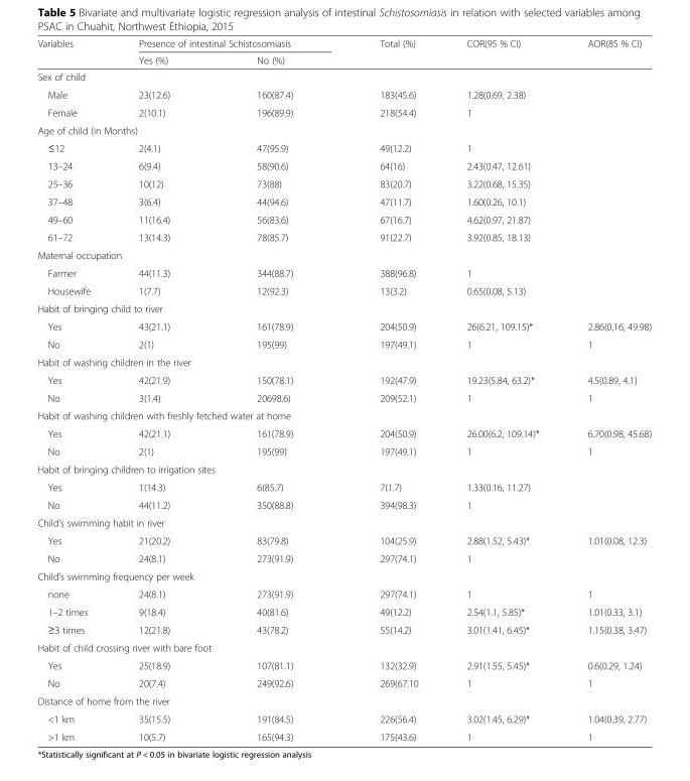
<table><thead><tr><td rowspan="2">Variables</td><td colspan="2">Presence of intestinal Schistosomiasis</td><td rowspan="2">Total (%)</td><td rowspan="2">COR(95 % CI)</td><td rowspan="2">AOR(85 % CI)</td></tr><tr><td>Yes (%)</td><td>No (%)</td></tr></thead><tbody><tr><td colspan="6">Sex of child</td></tr><tr><td>Male</td><td>23(12.6)</td><td>160(87.4)</td><td>183(45.6)</td><td>1.28(0.69, 2.38)</td><td></td></tr><tr><td>Female</td><td>2(10.1)</td><td>196(89.9)</td><td>218(54.4)</td><td>1</td><td></td></tr><tr><td colspan="6">Age of child (in Months)</td></tr><tr><td>≤12</td><td>2(4.1)</td><td>47(95.9)</td><td>49(12.2)</td><td>1</td><td></td></tr><tr><td>13–24</td><td>6(9.4)</td><td>58(90.6)</td><td>64(16)</td><td>2.43(0.47, 12.61)</td><td></td></tr><tr><td>25–36</td><td>10(12)</td><td>73(88)</td><td>83(20.7)</td><td>3.22(0.68, 15.35)</td><td></td></tr><tr><td>37–48</td><td>3(6.4)</td><td>44(94.6)</td><td>47(11.7)</td><td>1.60(0.26, 10.1)</td><td></td></tr><tr><td>49–60</td><td>11(16.4)</td><td>56(83.6)</td><td>67(16.7)</td><td>4.62(0.97, 21.87)</td><td></td></tr><tr><td>61–72</td><td>13(14.3)</td><td>78(85.7)</td><td>91(22.7)</td><td>3.92(0.85, 18.13)</td><td></td></tr><tr><td colspan="6">Maternal occupation</td></tr><tr><td>Farmer</td><td>44(11.3)</td><td>344(88.7)</td><td>388(96.8)</td><td>1</td><td></td></tr><tr><td>Housewife</td><td>1(7.7)</td><td>12(92.3)</td><td>13(3.2)</td><td>0.65(0.08, 5.13)</td><td></td></tr><tr><td colspan="6">Habit of bringing child to river</td></tr><tr><td>Yes</td><td>43(21.1)</td><td>161(78.9)</td><td>204(50.9)</td><td>26(6.21, 109.15)*</td><td>2.86(0,16, 49.98)</td></tr><tr><td>No</td><td>2(1)</td><td>195(99)</td><td>197(49.1)</td><td>1</td><td>1</td></tr><tr><td colspan="6">Habit of washing children in the river</td></tr><tr><td>Yes</td><td>42(21.9)</td><td>150(78.1)</td><td>192(47.9)</td><td>19.23(5.84, 63.2)*</td><td>4.5(0.89, 4.1)</td></tr><tr><td>No</td><td>3(1.4)</td><td>20698.6)</td><td>209(52.1)</td><td>1</td><td>1</td></tr><tr><td colspan="6">Habit of washing children with freshly fetched water at home</td></tr><tr><td>Yes</td><td>42(21.1)</td><td>161(78.9)</td><td>204(50.9)</td><td>26.00(6.2, 109.14)*</td><td>6.70(0.98, 45.68)</td></tr><tr><td>No</td><td>2(1)</td><td>195(99)</td><td>197(49.1)</td><td>1</td><td>1</td></tr><tr><td colspan="6">Habit of bringing children to irrigation sites</td></tr><tr><td>Yes</td><td>1(14.3)</td><td>6(85.7)</td><td>7(1.7)</td><td>1.33(0.16, 11.27)</td><td></td></tr><tr><td>No</td><td>44(11.2)</td><td>350(88.8)</td><td>394(98.3)</td><td>1</td><td></td></tr><tr><td colspan="6">Child’s swimming habit in river</td></tr><tr><td>Yes</td><td>21(20.2)</td><td>83(79.8)</td><td>104(25.9)</td><td>2.88(1.52, 5.43)*</td><td>1.01(0.08, 12.3)</td></tr><tr><td>No</td><td>24(8.1)</td><td>273(91.9)</td><td>297(74.1)</td><td>1</td><td></td></tr><tr><td colspan="6">Child’s swimming frequency per week</td></tr><tr><td>none</td><td>24(8.1)</td><td>273(91.9)</td><td>297(74.1)</td><td>1</td><td>1</td></tr><tr><td>1–2 times</td><td>9(18.4)</td><td>40(81.6)</td><td>49(12.2)</td><td>2.54(1.1, 5.85)*</td><td>1.01(0.33, 3.1)</td></tr><tr><td>≥3 times</td><td>12(21.8)</td><td>43(78.2)</td><td>55(14.2)</td><td>3.01(1.41, 6.45)*</td><td>1.15(0.38, 3.47)</td></tr><tr><td colspan="6">Habit of child crossing river with bare foot</td></tr><tr><td>Yes</td><td>25(18.9)</td><td>107(81.1)</td><td>132(32.9)</td><td>2.91(1.55, 5.45)*</td><td>0.6(0.29, 1.24)</td></tr><tr><td>No</td><td>20(7.4)</td><td>249(92.6)</td><td>269(67.10</td><td>1</td><td>1</td></tr><tr><td colspan="6">Distance of home from the river</td></tr><tr><td>&lt;1 km</td><td>35(15.5)</td><td>191(84.5)</td><td>226(56.4)</td><td>3.02(1.45, 6.29)*</td><td>1.04(0.39, 2.77)</td></tr><tr><td>&gt;1 km</td><td>10(5.7)</td><td>165(94.3)</td><td>175(43.6)</td><td>1</td><td>1</td></tr></tbody></table>